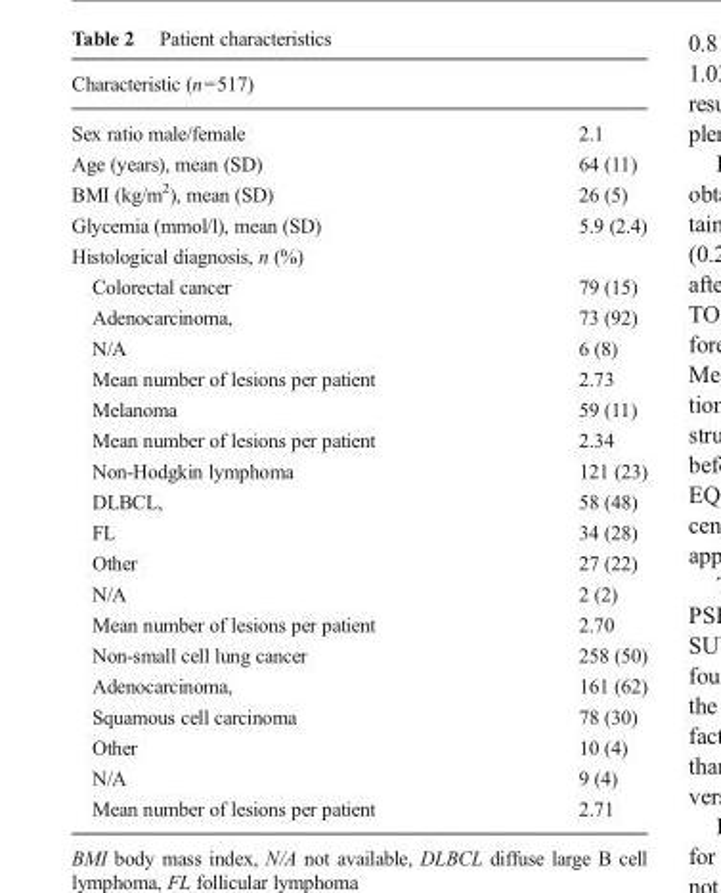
<table><thead><tr><td colspan="2">Characteristic (n=517)</td></tr><tr><td>Sex ratio male/female</td><td>2.1</td></tr></thead><tbody><tr><td>Age (years), mean (SD)</td><td>64 (11)</td></tr><tr><td>BMI (kg/m<sup>2</sup>), mean (SD)</td><td>26 (5)</td></tr><tr><td>Glycemia (mmol/l), mean (SD)</td><td>5.9 (2.4)</td></tr><tr><td colspan="2">Histological diagnosis, n (%)</td></tr><tr><td>Colorectal cancer</td><td>79 (15)</td></tr><tr><td>Adenocarcinoma,</td><td>73 (92)</td></tr><tr><td>N/A</td><td>6 (8)</td></tr><tr><td>Mean number of lesions per patient</td><td>2.73</td></tr><tr><td>Melanoma</td><td>59 (11)</td></tr><tr><td>Mean number of lesions per patient</td><td>2.34</td></tr><tr><td>Non-Hodgkin lymphoma</td><td>121 (23)</td></tr><tr><td>DLBCL,</td><td>58 (48)</td></tr><tr><td>FL</td><td>34 (28)</td></tr><tr><td>Other</td><td>27 (22)</td></tr><tr><td>N/A</td><td>2 (2)</td></tr><tr><td>Mean number of lesions per patient</td><td>2.70</td></tr><tr><td>Non-small cell lung cancer</td><td>258 (50)</td></tr><tr><td>Adenocarcinoma,</td><td>161 (62)</td></tr><tr><td>Squamous cell carcinoma</td><td>78 (30)</td></tr><tr><td>Other</td><td>10 (4)</td></tr><tr><td>N/A</td><td>9 (4)</td></tr><tr><td>Mean number of lesions per patient</td><td>2.71</td></tr></tbody></table>